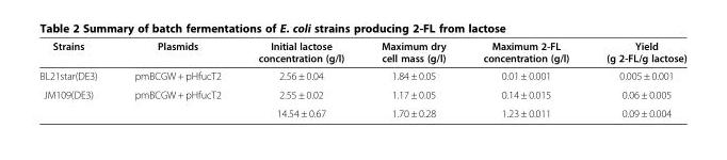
<table><thead><tr><td>Strains</td><td>Plasmids</td><td>Initial lactose concentration (g/l)</td><td>Maximum dry cell mass (g/l)</td><td>Maximum 2-FL concentration (g/l)</td><td>Yield (g 2-FL/g lactose)</td></tr></thead><tbody><tr><td>BL21star(DE3)</td><td>pmBCGW + pHfucT2</td><td>2.56 ± 0.04</td><td>1.84 ± 0.05</td><td>0.01 ± 0.001</td><td>0.005 ± 0.001</td></tr><tr><td rowspan="2">JM109(DE3)</td><td>pmBCGW + pHfucT2</td><td>2.55 ± 0.02</td><td>1.17 ± 0.05</td><td>0.14 ± 0.015</td><td>0.06 ± 0.005</td></tr><tr><td></td><td>14.54 ± 0.67</td><td>1.70 ± 0.28</td><td>1.23 ± 0.011</td><td>0.09 ± 0.004</td></tr></tbody></table>